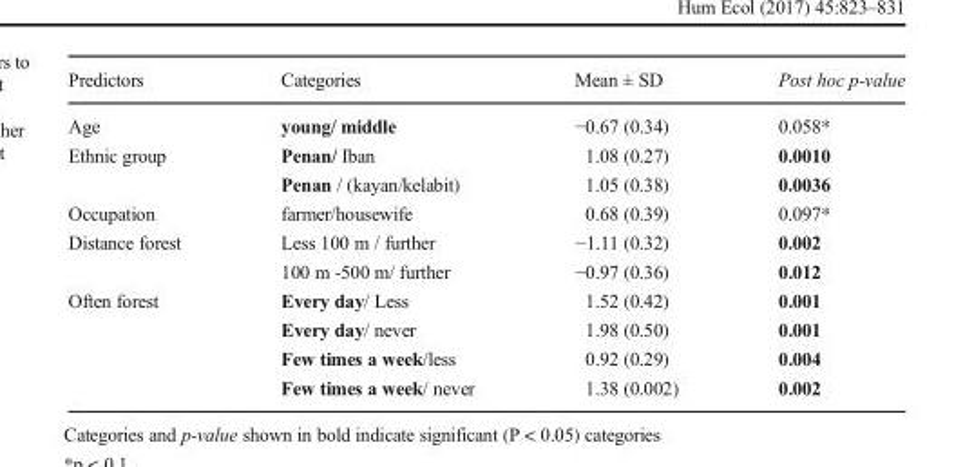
<table><thead><tr><td>Predictors</td><td>Categories</td><td>Mean ± SD</td><td>Post hoc p-value</td></tr></thead><tbody><tr><td>Age</td><td>young/ middle</td><td>−0.67 (0.34)</td><td>0.058*</td></tr><tr><td rowspan="2">Ethnic group</td><td>Penan/ Iban</td><td>1.08 (0.27)</td><td>0.0010</td></tr><tr><td>Penan / (kayan/kelabit)</td><td>1.05 (0.38)</td><td>0.0036</td></tr><tr><td>Occupation</td><td>farmer/housewife</td><td>0.68 (0.39)</td><td>0.097*</td></tr><tr><td rowspan="2">Distance forest</td><td>Less 100 m / further</td><td>−1.11 (0.32)</td><td>0.002</td></tr><tr><td>100 m -500 m/ further</td><td>−0.97 (0.36)</td><td>0.012</td></tr><tr><td rowspan="4">Often forest</td><td>Every day/ Less</td><td>1.52 (0.42)</td><td>0.001</td></tr><tr><td>Every day/ never</td><td>1.98 (0.50)</td><td>0.001</td></tr><tr><td>Few times a week/less</td><td>0.92 (0.29)</td><td>0.004</td></tr><tr><td>Few times a week/ never</td><td>1.38 (0.002)</td><td>0.002</td></tr></tbody></table>